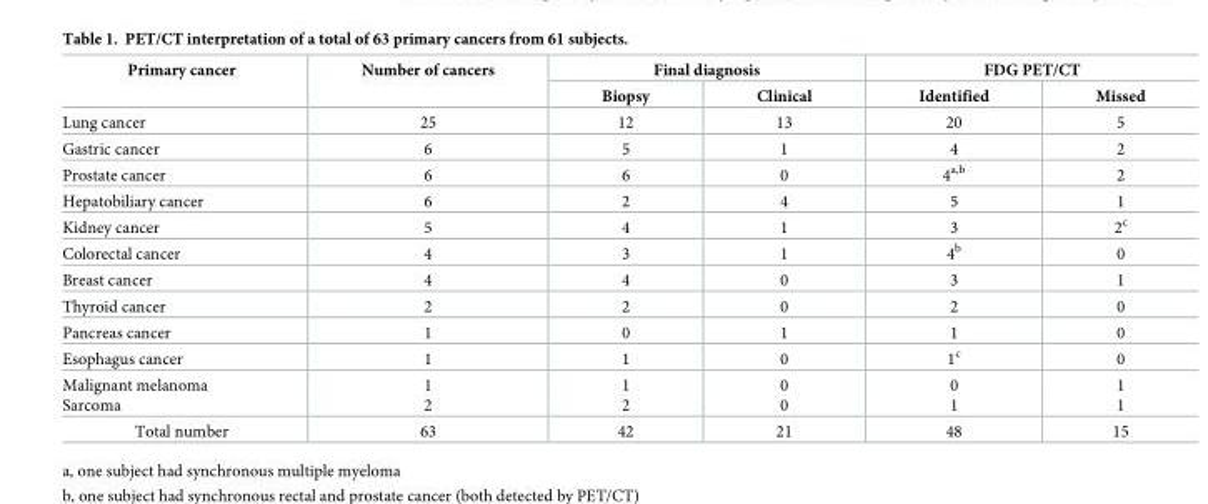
<table><thead><tr><td rowspan="2">Primary cancer</td><td rowspan="2">Number of cancers</td><td colspan="2">Final diagnosis</td><td colspan="2">FDG PET/CT</td></tr><tr><td>Biopsy</td><td>Clinical</td><td>Identified</td><td>Missed</td></tr></thead><tbody><tr><td>Lung cancer</td><td>25</td><td>12</td><td>13</td><td>20</td><td>5</td></tr><tr><td>Gastric cancer</td><td>6</td><td>5</td><td>1</td><td>4</td><td>2</td></tr><tr><td>Prostate cancer</td><td>6</td><td>6</td><td>0</td><td>4<sup>a,b</sup></td><td>2</td></tr><tr><td>Hepatobiliary cancer</td><td>6</td><td>2</td><td>4</td><td>5</td><td>1</td></tr><tr><td>Kidney cancer</td><td>5</td><td>4</td><td>1</td><td>3</td><td>2<sup>c</sup></td></tr><tr><td>Colorectal cancer</td><td>4</td><td>3</td><td>1</td><td>4<sup>b</sup></td><td>0</td></tr><tr><td>Breast cancer</td><td>4</td><td>4</td><td>0</td><td>3</td><td>1</td></tr><tr><td>Thyroid cancer</td><td>2</td><td>2</td><td>0</td><td>2</td><td>0</td></tr><tr><td>Pancreas cancer</td><td>1</td><td>0</td><td>1</td><td>1</td><td>0</td></tr><tr><td>Esophagus cancer</td><td>1</td><td>1</td><td>0</td><td>1<sup>c</sup></td><td>0</td></tr><tr><td>Malignant melanoma Sarcoma</td><td>1 2</td><td>1 2</td><td>0 0</td><td>0 1</td><td>1 1</td></tr><tr><td>Total number</td><td>63</td><td>42</td><td>21</td><td>48</td><td>15</td></tr></tbody></table>